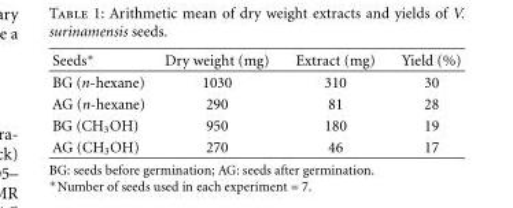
<table><thead><tr><td>Seeds∗</td><td>Dry weight (mg)</td><td>Extract (mg)</td><td>Yield (%)</td></tr></thead><tbody><tr><td>BG (n-hexane)</td><td>1030</td><td>310</td><td>30</td></tr><tr><td>AG (n-hexane)</td><td>290</td><td>81</td><td>28</td></tr><tr><td>BG (CH<sub>3</sub>OH)</td><td>950</td><td>180</td><td>19</td></tr><tr><td>AG (CH<sub>3</sub>OH)</td><td>270</td><td>46</td><td>17</td></tr></tbody></table>